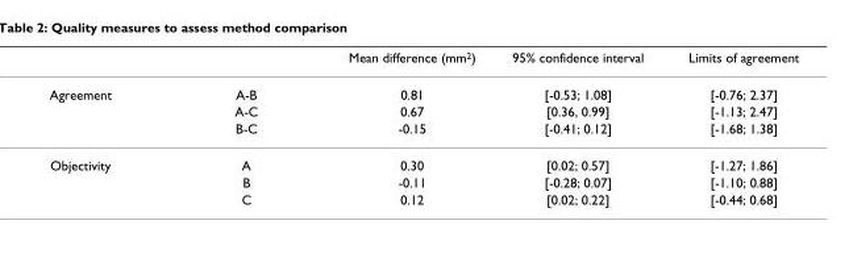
<table><thead><tr><td></td><td></td><td>Mean difference (mm2)</td><td>95% confidence interval</td><td>Limits of agreement</td></tr></thead><tbody><tr><td rowspan="3">Agreement</td><td>A-B</td><td>0.81</td><td>[-0.53; 1.08]</td><td>[-0.76; 2.37]</td></tr><tr><td>A-C</td><td>0.67</td><td>[0.36, 0.99]</td><td>[-1.13; 2.47]</td></tr><tr><td>B-C</td><td>-0.15</td><td>[-0.41; 0.12]</td><td>[-1.68; 1.38]</td></tr><tr><td rowspan="3">Objectivity</td><td>A</td><td>0.30</td><td>[0.02; 0.57]</td><td>[-1.27; 1.86]</td></tr><tr><td>B</td><td>-0.11</td><td>[-0.28; 0.07]</td><td>[-1.10; 0.88]</td></tr><tr><td>C</td><td>0.12</td><td>[0.02; 0.22]</td><td>[-0.44; 0.68]</td></tr></tbody></table>